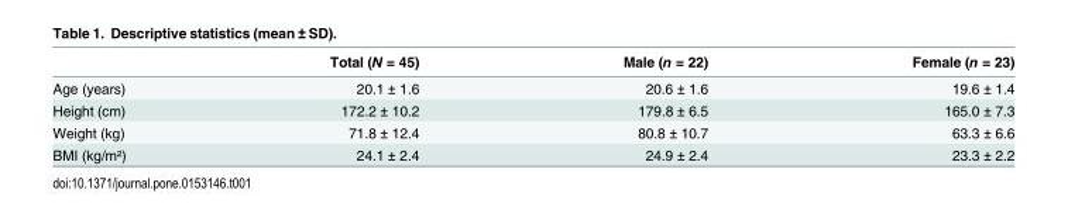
<table><thead><tr><td></td><td>Total (N = 45)</td><td>Male (n = 22)</td><td>Female (n = 23)</td></tr></thead><tbody><tr><td>Age (years)</td><td>20.1 ± 1.6</td><td>20.6 ± 1.6</td><td>19.6 ± 1.4</td></tr><tr><td>Height (cm)</td><td>172.2 ± 10.2</td><td>179.8 ± 6.5</td><td>165.0 ± 7.3</td></tr><tr><td>Weight (kg)</td><td>71.8 ± 12.4</td><td>80.8 ± 10.7</td><td>63.3 ± 6.6</td></tr><tr><td>BMI (kg/m²)</td><td>24.1 ± 2.4</td><td>24.9 ± 2.4</td><td>23.3 ± 2.2</td></tr></tbody></table>